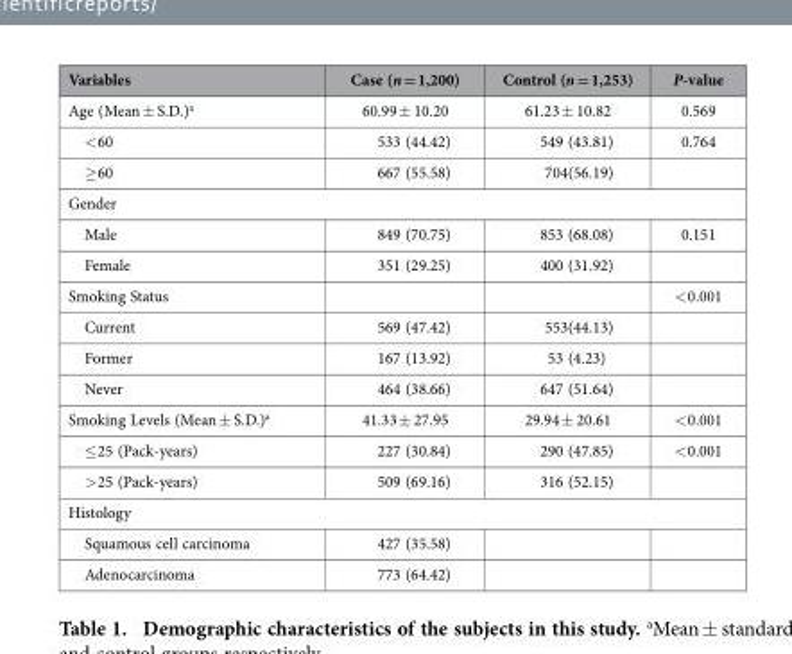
<table><thead><tr><td>Variables</td><td>Case (n = 1,200)</td><td>Control (n = 1,253)</td><td>P-value</td></tr></thead><tbody><tr><td>Age (Mean ± S.D.)<sup>a</sup></td><td>60.99 ± 10.20</td><td>61.23 ± 10.82</td><td>0.569</td></tr><tr><td>&lt; 60</td><td>533 (44.42)</td><td>549 (43.81)</td><td>0.764</td></tr><tr><td>≥ 60</td><td>667 (55.58)</td><td>704(56.19)</td><td></td></tr><tr><td colspan="4">Gender</td></tr><tr><td>Male</td><td>849 (70.75)</td><td>853 (68.08)</td><td>0.151</td></tr><tr><td>Female</td><td>351 (29.25)</td><td>400 (31.92)</td><td></td></tr><tr><td>Smoking Status</td><td></td><td></td><td>&lt; 0.001</td></tr><tr><td>Current</td><td>569 (47.42)</td><td>553(44.13)</td><td></td></tr><tr><td>Former</td><td>167 (13.92)</td><td>53 (4.23)</td><td></td></tr><tr><td>Never</td><td>464 (38.66)</td><td>647 (51.64)</td><td></td></tr><tr><td>Smoking Levels (Mean ± S.D.)<sup>a</sup></td><td>41.33 ± 27.95</td><td>29.94 ± 20.61</td><td>&lt; 0.001</td></tr><tr><td>≤ 25 (Pack-years)</td><td>227 (30.84)</td><td>290 (47.85)</td><td>&lt; 0.001</td></tr><tr><td>&gt; 25 (Pack-years)</td><td>509 (69.16)</td><td>316 (52.15)</td><td></td></tr><tr><td colspan="4">Histology</td></tr><tr><td>Squamous cell carcinoma</td><td>427 (35.58)</td><td></td><td></td></tr><tr><td>Adenocarcinoma</td><td>773 (64.42)</td><td></td><td></td></tr></tbody></table>